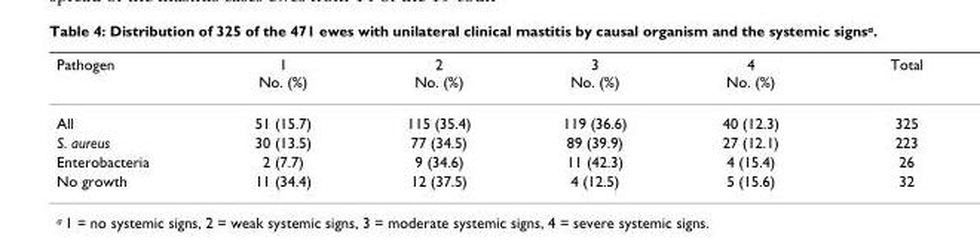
<table><thead><tr><td>Pathogen</td><td>1 No. (%)</td><td>2 No. (%)</td><td>3 No. (%)</td><td>4 No. (%)</td><td>Total</td></tr></thead><tbody><tr><td>All</td><td>51 (15.7)</td><td>115 (35.4)</td><td>119 (36.6)</td><td>40 (12.3)</td><td>325</td></tr><tr><td>S. aureus</td><td>30 (13.5)</td><td>77 (34.5)</td><td>89 (39.9)</td><td>27 (12.1)</td><td>223</td></tr><tr><td>Enterobacteria</td><td>2 (7.7)</td><td>9 (34.6)</td><td>11 (42.3)</td><td>4 (15.4)</td><td>26</td></tr><tr><td>No growth</td><td>11 (34.4)</td><td>12 (37.5)</td><td>4 (12.5)</td><td>5 (15.6)</td><td>32</td></tr></tbody></table>